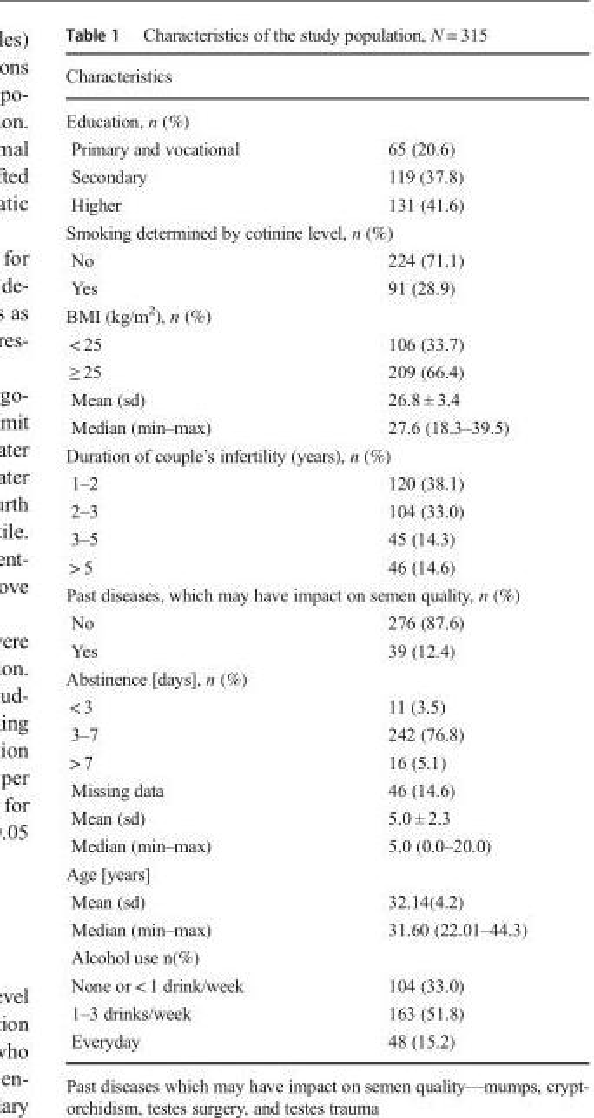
<table><thead><tr><td rowspan="2" colspan="2">Characteristics Education, n (%)</td></tr><tr></tr><tr><td>Primary and vocational</td><td>65 (20.6)</td></tr></thead><tbody><tr><td>Secondary</td><td>119 (37.8)</td></tr><tr><td>Higher</td><td>131 (41.6)</td></tr><tr><td colspan="2">Smoking determined by cotinine level, n (%)</td></tr><tr><td>No</td><td>224 (71.1)</td></tr><tr><td>Yes</td><td>91 (28.9)</td></tr><tr><td colspan="2">BMI (kg/m<sup>2</sup>), n (%)</td></tr><tr><td>&lt; 25</td><td>106 (33.7)</td></tr><tr><td>≥ 25</td><td>209 (66.4)</td></tr><tr><td>Mean (sd)</td><td>26.8 ± 3.4</td></tr><tr><td>Median (min–max)</td><td>27.6 (18.3–39.5)</td></tr><tr><td colspan="2">Duration of couple’s infertility (years), n (%)</td></tr><tr><td>1–2</td><td>120 (38.1)</td></tr><tr><td>2–3</td><td>104 (33.0)</td></tr><tr><td>3–5</td><td>45 (14.3)</td></tr><tr><td>&gt; 5</td><td>46 (14.6)</td></tr><tr><td colspan="2">Past diseases, which may have impact on semen quality, n (%)</td></tr><tr><td>No</td><td>276 (87.6)</td></tr><tr><td>Yes</td><td>39 (12.4)</td></tr><tr><td colspan="2">Abstinence [days], n (%)</td></tr><tr><td>&lt; 3</td><td>11 (3.5)</td></tr><tr><td>3–7</td><td>242 (76.8)</td></tr><tr><td>&gt; 7</td><td>16 (5.1)</td></tr><tr><td>Missing data</td><td>46 (14.6)</td></tr><tr><td>Mean (sd)</td><td>5.0 ± 2.3</td></tr><tr><td>Median (min–max)</td><td>5.0 (0.0–20.0)</td></tr><tr><td colspan="2">Age [years]</td></tr><tr><td>Mean (sd)</td><td>32.14(4.2)</td></tr><tr><td>Median (min–max)</td><td>31.60 (22.01–44.3)</td></tr><tr><td colspan="2">Alcohol use n(%)</td></tr><tr><td>None or &lt; 1 drink/week</td><td>104 (33.0)</td></tr><tr><td>1–3 drinks/week</td><td>163 (51.8)</td></tr><tr><td>Everyday</td><td>48 (15.2)</td></tr></tbody></table>